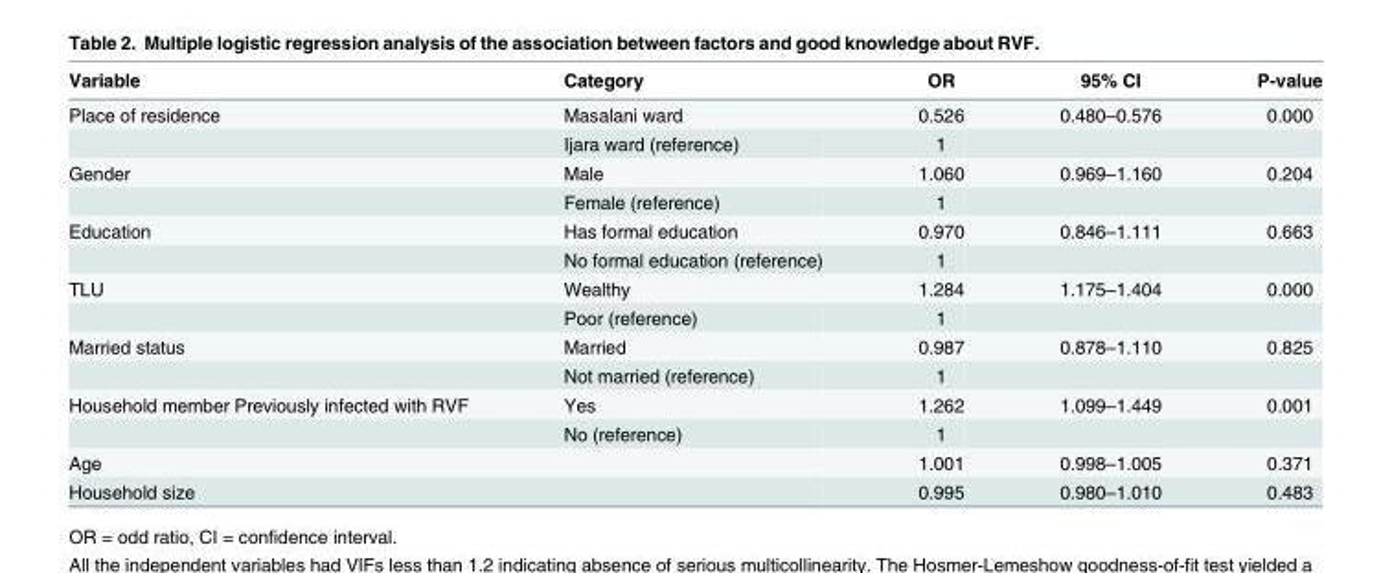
<table><thead><tr><td>Variable</td><td>Category</td><td>OR</td><td>95% CI</td><td>P-value</td></tr></thead><tbody><tr><td rowspan="2">Place of residence</td><td>Masalani ward</td><td>0.526</td><td>0.480–0.576</td><td>0.000</td></tr><tr><td>Ijara ward (reference)</td><td>1</td><td></td><td></td></tr><tr><td rowspan="2">Gender</td><td>Male</td><td>1.060</td><td>0.969–1.160</td><td>0.204</td></tr><tr><td>Female (reference)</td><td>1</td><td></td><td></td></tr><tr><td rowspan="2">Education</td><td>Has formal education</td><td>0.970</td><td>0.846–1.111</td><td>0.663</td></tr><tr><td>No formal education (reference)</td><td>1</td><td></td><td></td></tr><tr><td rowspan="2">TLU</td><td>Wealthy</td><td>1.284</td><td>1.175–1.404</td><td>0.000</td></tr><tr><td>Poor (reference)</td><td>1</td><td></td><td></td></tr><tr><td rowspan="2">Married status</td><td>Married</td><td>0.987</td><td>0.878–1.110</td><td>0.825</td></tr><tr><td>Not married (reference)</td><td>1</td><td></td><td></td></tr><tr><td rowspan="2">Household member Previously infected with RVF</td><td>Yes</td><td>1.262</td><td>1.099–1.449</td><td>0.001</td></tr><tr><td>No (reference)</td><td>1</td><td></td><td></td></tr><tr><td>Age</td><td></td><td>1.001</td><td>0.998–1.005</td><td>0.371</td></tr><tr><td>Household size</td><td></td><td>0.995</td><td>0.980–1.010</td><td>0.483</td></tr></tbody></table>